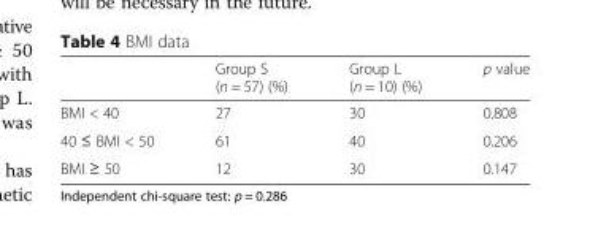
<table><thead><tr><td></td><td>Group S (n = 57) (%)</td><td>Group L (n = 10) (%)</td><td>p value</td></tr></thead><tbody><tr><td>BMI &lt; 40</td><td>27</td><td>30</td><td>0.808</td></tr><tr><td>40 ≤ BMI &lt; 50</td><td>61</td><td>40</td><td>0.206</td></tr><tr><td>BMI ≥ 50</td><td>12</td><td>30</td><td>0.147</td></tr></tbody></table>